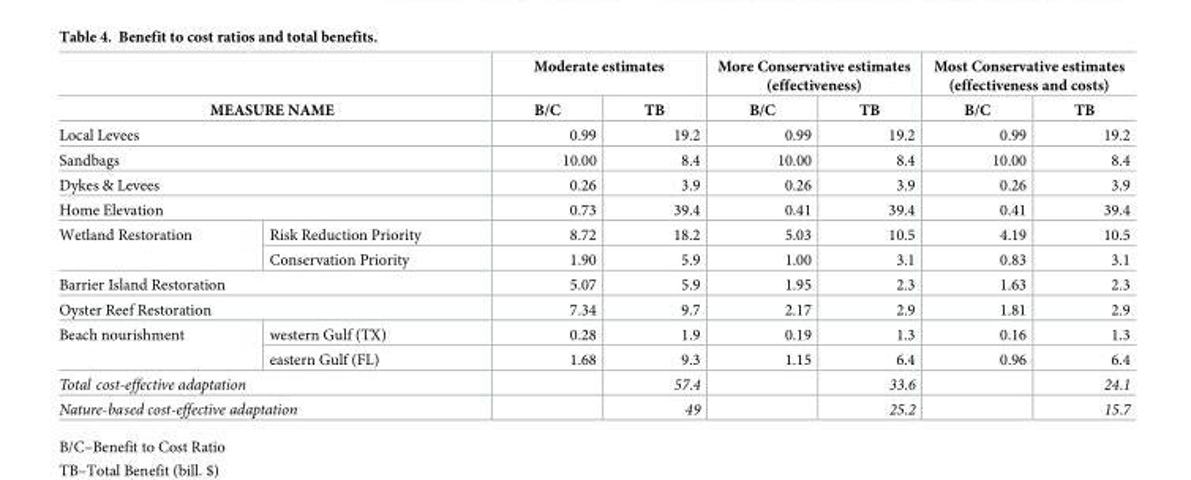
<table><thead><tr><td></td><td></td><td colspan="2">Moderate estimates</td><td colspan="2">More Conservative estimates (effectiveness)</td><td colspan="2">Most Conservative estimates (effectiveness and costs)</td></tr><tr><td colspan="2">MEASURE NAME</td><td>B/C</td><td>TB</td><td>B/C</td><td>TB</td><td>B/C</td><td>TB</td></tr></thead><tbody><tr><td colspan="2">Local Levees</td><td>0.99</td><td>19.2</td><td>0.99</td><td>19.2</td><td>0.99</td><td>19.2</td></tr><tr><td colspan="2">Sandbags</td><td>10.00</td><td>8.4</td><td>10.00</td><td>8.4</td><td>10.00</td><td>8.4</td></tr><tr><td colspan="2">Dykes &amp; Levees</td><td>0.26</td><td>3.9</td><td>0.26</td><td>3.9</td><td>0.26</td><td>3.9</td></tr><tr><td colspan="2">Home Elevation</td><td>0.73</td><td>39.4</td><td>0.41</td><td>39.4</td><td>0.41</td><td>39.4</td></tr><tr><td rowspan="2">Wetland Restoration</td><td>Risk Reduction Priority</td><td>8.72</td><td>18.2</td><td>5.03</td><td>10.5</td><td>4.19</td><td>10.5</td></tr><tr><td>Conservation Priority</td><td>1.90</td><td>5.9</td><td>1.00</td><td>3.1</td><td>0.83</td><td>3.1</td></tr><tr><td colspan="2">Barrier Island Restoration</td><td>5.07</td><td>5.9</td><td>1.95</td><td>2.3</td><td>1.63</td><td>2.3</td></tr><tr><td colspan="2">Oyster Reef Restoration</td><td>7.34</td><td>9.7</td><td>2.17</td><td>2.9</td><td>1.81</td><td>2.9</td></tr><tr><td rowspan="2">Beach nourishment</td><td>western Gulf (TX)</td><td>0.28</td><td>1.9</td><td>0.19</td><td>1.3</td><td>0.16</td><td>1.3</td></tr><tr><td>eastern Gulf (FL)</td><td>1.68</td><td>9.3</td><td>1.15</td><td>6.4</td><td>0.96</td><td>6.4</td></tr><tr><td colspan="2">Total cost-effective adaptation</td><td></td><td>57.4</td><td></td><td>33.6</td><td></td><td>24.1</td></tr><tr><td colspan="2">Nature-based cost-effective adaptation</td><td></td><td>49</td><td></td><td>25.2</td><td></td><td>15.7</td></tr></tbody></table>